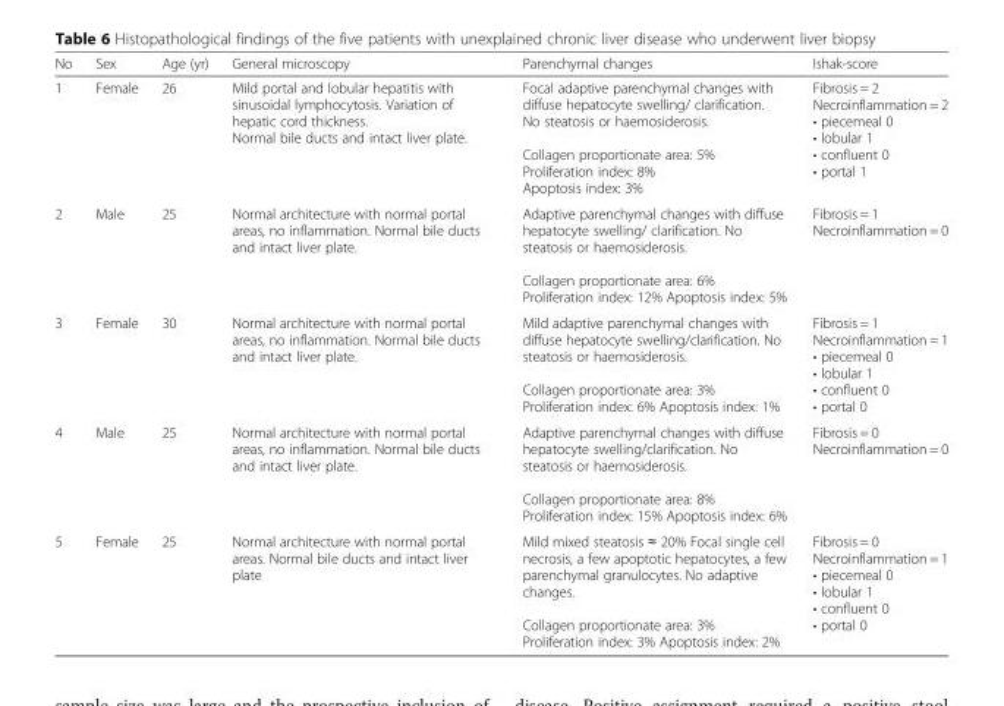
<table><thead><tr><td>No</td><td>Sex</td><td>Age (yr)</td><td>General microscopy</td><td>Parenchymal changes</td><td>Ishak-score</td></tr></thead><tbody><tr><td>1</td><td>Female</td><td>26</td><td>Mild portal and lobular hepatitis with sinusoidal lymphocytosis. Variation of hepatic cord thickness. Normal bile ducts and intact liver plate.</td><td>Focal adaptive parenchymal changes with diffuse hepatocyte swelling/ clarification. No steatosis or haemosiderosis. Collagen proportionate area: 5% Proliferation index: 8% Apoptosis index: 3%</td><td>Fibrosis = 2 Necroinflammation = 2 • piecemeal 0 • lobular 1 • confluent 0 • portal 1</td></tr><tr><td>2</td><td>Male</td><td>25</td><td>Normal architecture with normal portal areas, no inflammation. Normal bile ducts and intact liver plate.</td><td>Adaptive parenchymal changes with diffuse hepatocyte swelling/ clarification. No steatosis or haemosiderosis. Collagen proportionate area: 6% Proliferation index: 12% Apoptosis index: 5%</td><td>Fibrosis = 1 Necroinflammation = 0</td></tr><tr><td>3</td><td>Female</td><td>30</td><td>Normal architecture with normal portal areas, no inflammation. Normal bile ducts and intact liver plate.</td><td>Mild adaptive parenchymal changes with diffuse hepatocyte swelling/clarification. No steatosis or haemosiderosis. Collagen proportionate area: 3% Proliferation index: 6% Apoptosis index: 1%</td><td>Fibrosis = 1 Necroinflammation = 1 • piecemeal 0 • lobular 1 • confluent 0 • portal 0</td></tr><tr><td>4</td><td>Male</td><td>25</td><td>Normal architecture with normal portal areas, no inflammation. Normal bile ducts and intact liver plate.</td><td>Adaptive parenchymal changes with diffuse hepatocyte swelling/clarification. No steatosis or haemosiderosis. Collagen proportionate area: 8% Proliferation index: 15% Apoptosis index: 6%</td><td>Fibrosis = 0 Necroinflammation = 0</td></tr><tr><td>5</td><td>Female</td><td>25</td><td>Normal architecture with normal portal areas. Normal bile ducts and intact liver plate</td><td>Mild mixed steatosis ≈ 20% Focal single cell necrosis, a few apoptotic hepatocytes, a few parenchymal granulocytes. No adaptive changes. Collagen proportionate area: 3% Proliferation index: 3% Apoptosis index: 2%</td><td>Fibrosis = 0 Necroinflammation = 1 • piecemeal 0 • lobular 1 • confluent 0 • portal 0</td></tr></tbody></table>